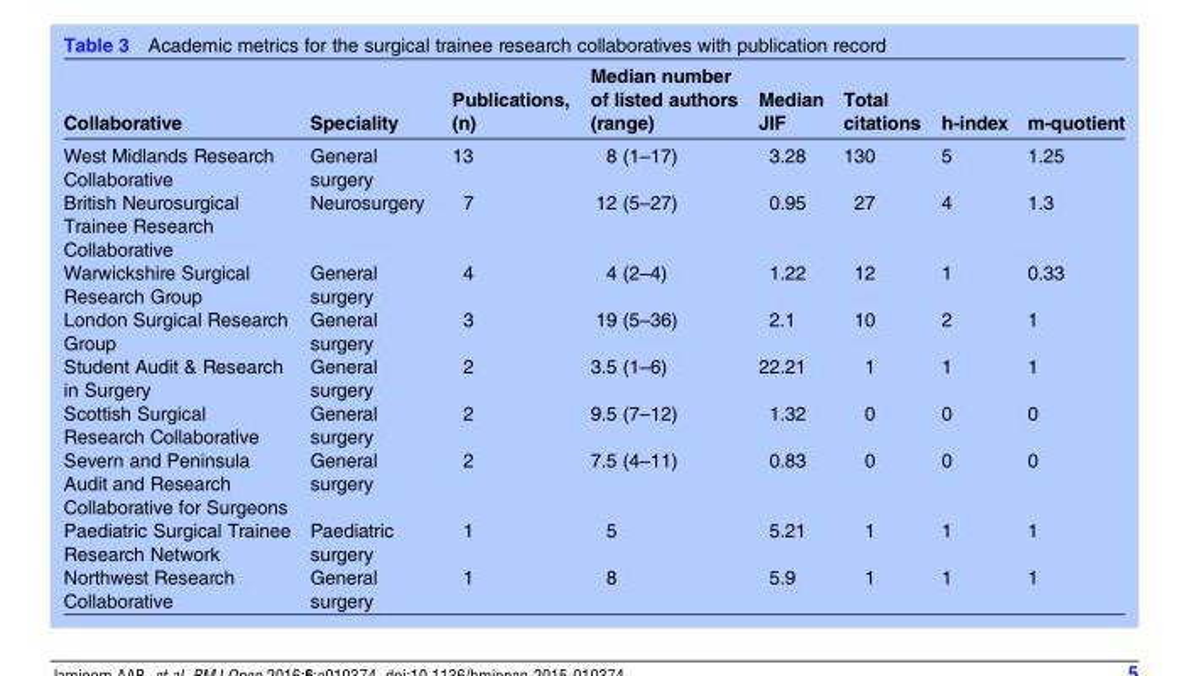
<table><thead><tr><td>Collaborative</td><td>Speciality</td><td>Publications, (n)</td><td>Median number of listed authors (range)</td><td>Median JIF</td><td>Total citations</td><td>h-index</td><td>m-quotient</td></tr></thead><tbody><tr><td>West Midlands Research Collaborative</td><td>General surgery</td><td>13</td><td>8 (1–17)</td><td>3.28</td><td>130</td><td>5</td><td>1.25</td></tr><tr><td>British Neurosurgical Trainee Research Collaborative</td><td>Neurosurgery</td><td>7</td><td>12 (5–27)</td><td>0.95</td><td>27</td><td>4</td><td>1.3</td></tr><tr><td>Warwickshire Surgical Research Group</td><td>General surgery</td><td>4</td><td>4 (2–4)</td><td>1.22</td><td>12</td><td>1</td><td>0.33</td></tr><tr><td>London Surgical Research Group</td><td>General surgery</td><td>3</td><td>19 (5–36)</td><td>2.1</td><td>10</td><td>2</td><td>1</td></tr><tr><td>Student Audit &amp; Research in Surgery</td><td>General surgery</td><td>2</td><td>3.5 (1–6)</td><td>22.21</td><td>1</td><td>1</td><td>1</td></tr><tr><td>Scottish Surgical Research Collaborative</td><td>General surgery</td><td>2</td><td>9.5 (7–12)</td><td>1.32</td><td>0</td><td>0</td><td>0</td></tr><tr><td>Severn and Peninsula Audit and Research Collaborative for Surgeons</td><td>General surgery</td><td>2</td><td>7.5 (4–11)</td><td>0.83</td><td>0</td><td>0</td><td>0</td></tr><tr><td>Paediatric Surgical Trainee Research Network</td><td>Paediatric surgery</td><td>1</td><td>5</td><td>5.21</td><td>1</td><td>1</td><td>1</td></tr><tr><td>Northwest Research Collaborative</td><td>General surgery</td><td>1</td><td>8</td><td>5.9</td><td>1</td><td>1</td><td>1</td></tr></tbody></table>